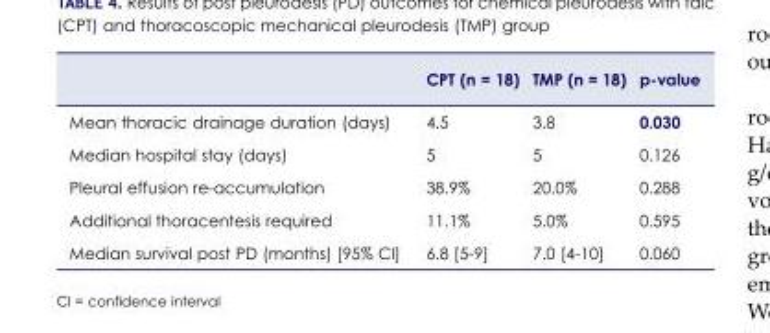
<table><thead><tr><td></td><td>CPT (n = 18)</td><td>TMP (n = 18)</td><td>p-value</td></tr></thead><tbody><tr><td>Mean thoracic drainage duration (days)</td><td>4.5</td><td>3.8</td><td>0.030</td></tr><tr><td>Median hospital stay (days)</td><td>5</td><td>5</td><td>0.126</td></tr><tr><td>Pleural effusion re-accumulation</td><td>38.9%</td><td>20.0%</td><td>0.288</td></tr><tr><td>Additional thoracentesis required</td><td>11.1%</td><td>5.0%</td><td>0.595</td></tr><tr><td>Median survival post PD (months) [95% CI]</td><td>6.8 [5-9]</td><td>7.0 [4-10]</td><td>0.060</td></tr></tbody></table>